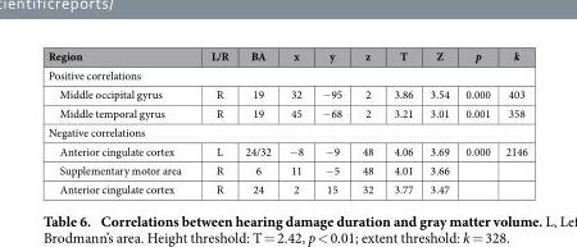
<table><thead><tr><td>Region</td><td>L/R</td><td>BA</td><td>x</td><td>y</td><td>z</td><td>T</td><td>Z</td><td>p</td><td>k</td></tr></thead><tbody><tr><td colspan="10">Positive correlations</td></tr><tr><td>Middle occipital gyrus</td><td>R</td><td>19</td><td>32</td><td>− 95</td><td>2</td><td>3.86</td><td>3.54</td><td>0.000</td><td>403</td></tr><tr><td>Middle temporal gyrus</td><td>R</td><td>19</td><td>45</td><td>− 68</td><td>2</td><td>3.21</td><td>3.01</td><td>0.001</td><td>358</td></tr><tr><td colspan="10">Negative correlations</td></tr><tr><td>Anterior cingulate cortex</td><td>L</td><td>24/32</td><td>− 8</td><td>− 9</td><td>48</td><td>4.06</td><td>3.69</td><td>0.000</td><td>2146</td></tr><tr><td>Supplementary motor area</td><td>R</td><td>6</td><td>11</td><td>− 5</td><td>48</td><td>4.01</td><td>3.66</td><td></td><td></td></tr><tr><td>Anterior cingulate cortex</td><td>R</td><td>24</td><td>2</td><td>15</td><td>32</td><td>3.77</td><td>3.47</td><td></td><td></td></tr></tbody></table>